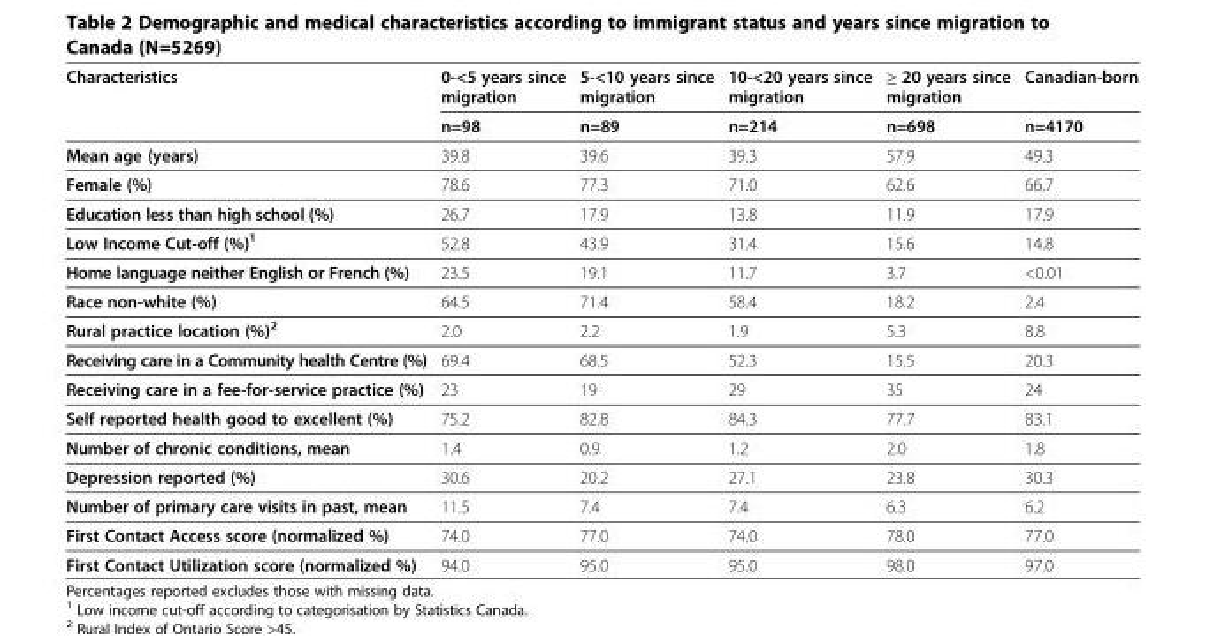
<table><thead><tr><td rowspan="2">Characteristics</td><td rowspan="2">0-&lt;5 years since migration n=98</td><td rowspan="2">5-&lt;10 years since migration n=89</td><td rowspan="2">10-&lt;20 years since migration n=214</td><td rowspan="2">≥ 20 years since migration n=698</td><td rowspan="2">Canadian-born n=4170</td></tr><tr></tr></thead><tbody><tr><td>Mean age (years)</td><td>39.8</td><td>39.6</td><td>39.3</td><td>57.9</td><td>49.3</td></tr><tr><td>Female (%)</td><td>78.6</td><td>77.3</td><td>71.0</td><td>62.6</td><td>66.7</td></tr><tr><td>Education less than high school (%)</td><td>26.7</td><td>17.9</td><td>13.8</td><td>11.9</td><td>17.9</td></tr><tr><td>Low Income Cut-off (%)<sup>1</sup></td><td>52.8</td><td>43.9</td><td>31.4</td><td>15.6</td><td>14.8</td></tr><tr><td>Home language neither English or French (%)</td><td>23.5</td><td>19.1</td><td>11.7</td><td>3.7</td><td>&lt;0.01</td></tr><tr><td>Race non-white (%)</td><td>64.5</td><td>71.4</td><td>58.4</td><td>18.2</td><td>2.4</td></tr><tr><td>Rural practice location (%)<sup>2</sup></td><td>2.0</td><td>2.2</td><td>1.9</td><td>5.3</td><td>8.8</td></tr><tr><td>Receiving care in a Community health Centre (%)</td><td>69.4</td><td>68.5</td><td>52.3</td><td>15.5</td><td>20.3</td></tr><tr><td>Receiving care in a fee-for-service practice (%)</td><td>23</td><td>19</td><td>29</td><td>35</td><td>24</td></tr><tr><td>Self reported health good to excellent (%)</td><td>75.2</td><td>82.8</td><td>84.3</td><td>77.7</td><td>83.1</td></tr><tr><td>Number of chronic conditions, mean</td><td>1.4</td><td>0.9</td><td>1.2</td><td>2.0</td><td>1.8</td></tr><tr><td>Depression reported (%)</td><td>30.6</td><td>20.2</td><td>27.1</td><td>23.8</td><td>30.3</td></tr><tr><td>Number of primary care visits in past, mean</td><td>11.5</td><td>7.4</td><td>7.4</td><td>6.3</td><td>6.2</td></tr><tr><td>First Contact Access score (normalized %)</td><td>74.0</td><td>77.0</td><td>74.0</td><td>78.0</td><td>77.0</td></tr><tr><td>First Contact Utilization score (normalized %)</td><td>94.0</td><td>95.0</td><td>95.0</td><td>98.0</td><td>97.0</td></tr></tbody></table>